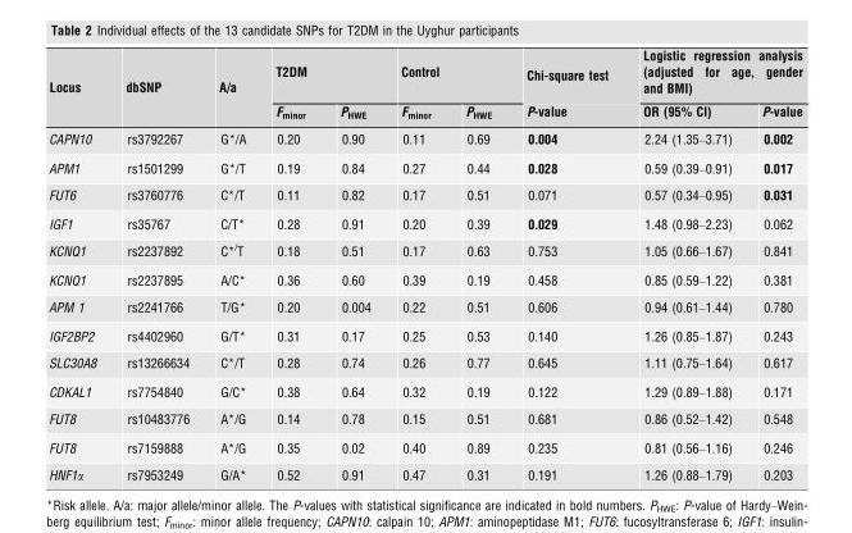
<table><thead><tr><td rowspan="2">Locus</td><td rowspan="2">dbSNP</td><td rowspan="2">A/a</td><td colspan="2">T2DM</td><td colspan="2">Control</td><td rowspan="2">Chi-square test P-value</td><td colspan="2">Logistic regression analysis (adjusted for age, gender and BMI)</td></tr><tr><td>F<sub>minor</sub></td><td>P<sub>HWE</sub></td><td>F<sub>minor</sub></td><td>P<sub>HWE</sub></td><td>OR (95% CI)</td><td>P-value</td></tr></thead><tbody><tr><td>CAPN10</td><td>rs3792267</td><td>G*/A</td><td>0.20</td><td>0.90</td><td>0.11</td><td>0.69</td><td>0.004</td><td>2.24 (1.35–3.71)</td><td>0.002</td></tr><tr><td>APM1</td><td>rs1501299</td><td>G*/T</td><td>0.19</td><td>0.84</td><td>0.27</td><td>0.44</td><td>0.028</td><td>0.59 (0.39–0.91)</td><td>0.017</td></tr><tr><td>FUT6</td><td>rs3760776</td><td>C*/T</td><td>0.11</td><td>0.82</td><td>0.17</td><td>0.51</td><td>0.071</td><td>0.57 (0.34–0.95)</td><td>0.031</td></tr><tr><td>IGF1</td><td>rs35767</td><td>C/T*</td><td>0.28</td><td>0.91</td><td>0.20</td><td>0.39</td><td>0.029</td><td>1.48 (0.98–2.23)</td><td>0.062</td></tr><tr><td>KCNQ1</td><td>rs2237892</td><td>C*/T</td><td>0.18</td><td>0.51</td><td>0.17</td><td>0.63</td><td>0.753</td><td>1.05 (0.66–1.67)</td><td>0.841</td></tr><tr><td>KCNQ1</td><td>rs2237895</td><td>A/C*</td><td>0.36</td><td>0.60</td><td>0.39</td><td>0.19</td><td>0.458</td><td>0.85 (0.59–1.22)</td><td>0.381</td></tr><tr><td>APM 1</td><td>rs2241766</td><td>T/G*</td><td>0.20</td><td>0.004</td><td>0.22</td><td>0.51</td><td>0.606</td><td>0.94 (0.61–1.44)</td><td>0.780</td></tr><tr><td>IGF2BP2</td><td>rs4402960</td><td>G/T*</td><td>0.31</td><td>0.17</td><td>0.25</td><td>0.53</td><td>0.140</td><td>1.26 (0.85–1.87)</td><td>0.243</td></tr><tr><td>SLC30A8</td><td>rs13266634</td><td>C*/T</td><td>0.28</td><td>0.74</td><td>0.26</td><td>0.77</td><td>0.645</td><td>1.11 (0.75–1.64)</td><td>0.617</td></tr><tr><td>CDKAL1</td><td>rs7754840</td><td>G/C*</td><td>0.38</td><td>0.64</td><td>0.32</td><td>0.19</td><td>0.122</td><td>1.29 (0.89–1.88)</td><td>0.171</td></tr><tr><td>FUT8</td><td>rs10483776</td><td>A*/G</td><td>0.14</td><td>0.78</td><td>0.15</td><td>0.51</td><td>0.681</td><td>0.86 (0.52–1.42)</td><td>0.548</td></tr><tr><td>FUT8</td><td>rs7159888</td><td>A*/G</td><td>0.35</td><td>0.02</td><td>0.40</td><td>0.89</td><td>0.235</td><td>0.81 (0.56–1.16)</td><td>0.246</td></tr><tr><td>HNF1α</td><td>rs7953249</td><td>G/A*</td><td>0.52</td><td>0.91</td><td>0.47</td><td>0.31</td><td>0.191</td><td>1.26 (0.88–1.79)</td><td>0.203</td></tr></tbody></table>